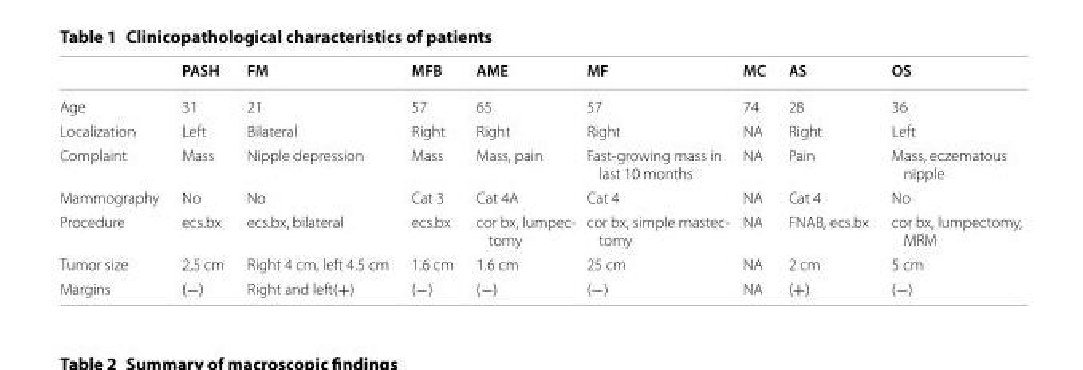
<table><thead><tr><td></td><td>PASH</td><td>FM</td><td>MFB</td><td>AME</td><td>MF</td><td>MC</td><td>AS</td><td>OS</td></tr></thead><tbody><tr><td>Age</td><td>31</td><td>21</td><td>57</td><td>65</td><td>57</td><td>74</td><td>28</td><td>36</td></tr><tr><td>Localization</td><td>Left</td><td>Bilateral</td><td>Right</td><td>Right</td><td>Right</td><td>NA</td><td>Right</td><td>Left</td></tr><tr><td>Complaint</td><td>Mass</td><td>Nipple depression</td><td>Mass</td><td>Mass, pain</td><td>Fast-growing mass in last 10 months</td><td>NA</td><td>Pain</td><td>Mass, eczematous nipple</td></tr><tr><td>Mammography</td><td>No</td><td>No</td><td>Cat 3</td><td>Cat 4A</td><td>Cat 4</td><td>NA</td><td>Cat 4</td><td>No</td></tr><tr><td>Procedure</td><td>ecs.bx</td><td>ecs.bx, bilateral</td><td>ecs.bx</td><td>cor bx, lumpec- tomy</td><td>cor bx, simple mastec- tomy</td><td>NA</td><td>FNAB, ecs.bx</td><td>cor bx, lumpectomy, MRM</td></tr><tr><td>Tumor size</td><td>2,5 cm</td><td>Right 4 cm, left 4.5 cm</td><td>1.6 cm</td><td>1.6 cm</td><td>25 cm</td><td>NA</td><td>2 cm</td><td>5 cm</td></tr><tr><td>Margins</td><td>(−)</td><td>Right and left(+)</td><td>(−)</td><td>(−)</td><td>(−)</td><td>NA</td><td>(+)</td><td>(−)</td></tr></tbody></table>